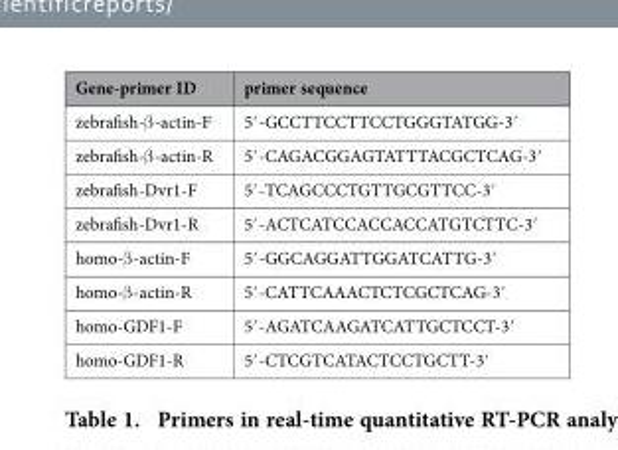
<table><thead><tr><td>Gene-primer ID</td><td>primer sequence</td></tr></thead><tbody><tr><td>zebrafish-β -actin-F</td><td>5′ -GCCTTCCTTCCTGGGTATGG-3′</td></tr><tr><td>zebrafish-β -actin-R</td><td>5′ -CAGACGGAGTATTTACGCTCAG-3′</td></tr><tr><td>zebrafish-Dvr1-F</td><td>5′ -TCAGCCCTGTTGCGTTCC-3′</td></tr><tr><td>zebrafish-Dvr1-R</td><td>5′ -ACTCATCCACCACCATGTCTTC-3′</td></tr><tr><td>homo-β -actin-F</td><td>5′ -GGCAGGATTGGATCATTG-3′</td></tr><tr><td>homo-β -actin-R</td><td>5′ -CATTCAAACTCTCGCTCAG-3′</td></tr><tr><td>homo-GDF1-F</td><td>5′ -AGATCAAGATCATTGCTCCT-3′</td></tr><tr><td>homo-GDF1-R</td><td>5′ -CTCGTCATACTCCTGCTT-3′</td></tr></tbody></table>